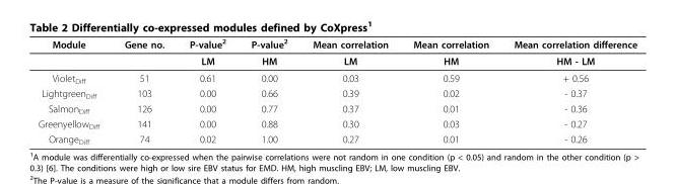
<table><thead><tr><td>Module</td><td>Gene no.</td><td>P-value<sup>2</sup></td><td>P-value<sup>2</sup></td><td>Mean correlation</td><td>Mean correlation</td><td>Mean correlation difference</td></tr></thead><tbody><tr><td></td><td></td><td>LM</td><td>HM</td><td>LM</td><td>HM</td><td>HM - LM</td></tr><tr><td>Violet<sub>Diff</sub></td><td>51</td><td>0.61</td><td>0.00</td><td>0.03</td><td>0.59</td><td>+ 0.56</td></tr><tr><td>Lightgreen<sub>Diff</sub></td><td>103</td><td>0.00</td><td>0.66</td><td>0.39</td><td>0.02</td><td>- 0.37</td></tr><tr><td>Salmon<sub>Diff</sub></td><td>126</td><td>0.00</td><td>0.77</td><td>0.37</td><td>0.01</td><td>- 0.36</td></tr><tr><td>Greenyellow<sub>Diff</sub></td><td>141</td><td>0.00</td><td>0.88</td><td>0.30</td><td>0.03</td><td>- 0.27</td></tr><tr><td>Orange<sub>Diff</sub></td><td>74</td><td>0.02</td><td>1.00</td><td>0.27</td><td>0.01</td><td>- 0.26</td></tr></tbody></table>